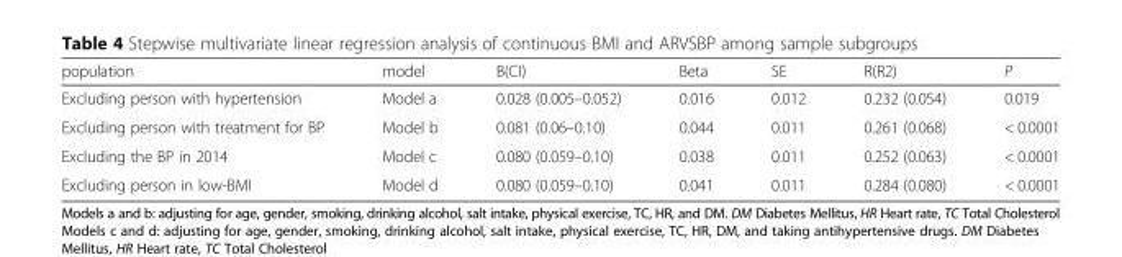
<table><thead><tr><td>population</td><td>model</td><td>B(CI)</td><td>Beta</td><td>SE</td><td>R(R2)</td><td>P</td></tr></thead><tbody><tr><td>Excluding person with hypertension</td><td>Model a</td><td>0.028 (0.005–0.052)</td><td>0.016</td><td>0.012</td><td>0.232 (0.054)</td><td>0.019</td></tr><tr><td>Excluding person with treatment for BP</td><td>Model b</td><td>0.081 (0.06–0.10)</td><td>0.044</td><td>0.011</td><td>0.261 (0.068)</td><td>&lt; 0.0001</td></tr><tr><td>Excluding the BP in 2014</td><td>Model c</td><td>0.080 (0.059–0.10)</td><td>0.038</td><td>0.011</td><td>0.252 (0.063)</td><td>&lt; 0.0001</td></tr><tr><td>Excluding person in low-BMI</td><td>Model d</td><td>0.080 (0.059–0.10)</td><td>0.041</td><td>0.011</td><td>0.284 (0.080)</td><td>&lt; 0.0001</td></tr></tbody></table>